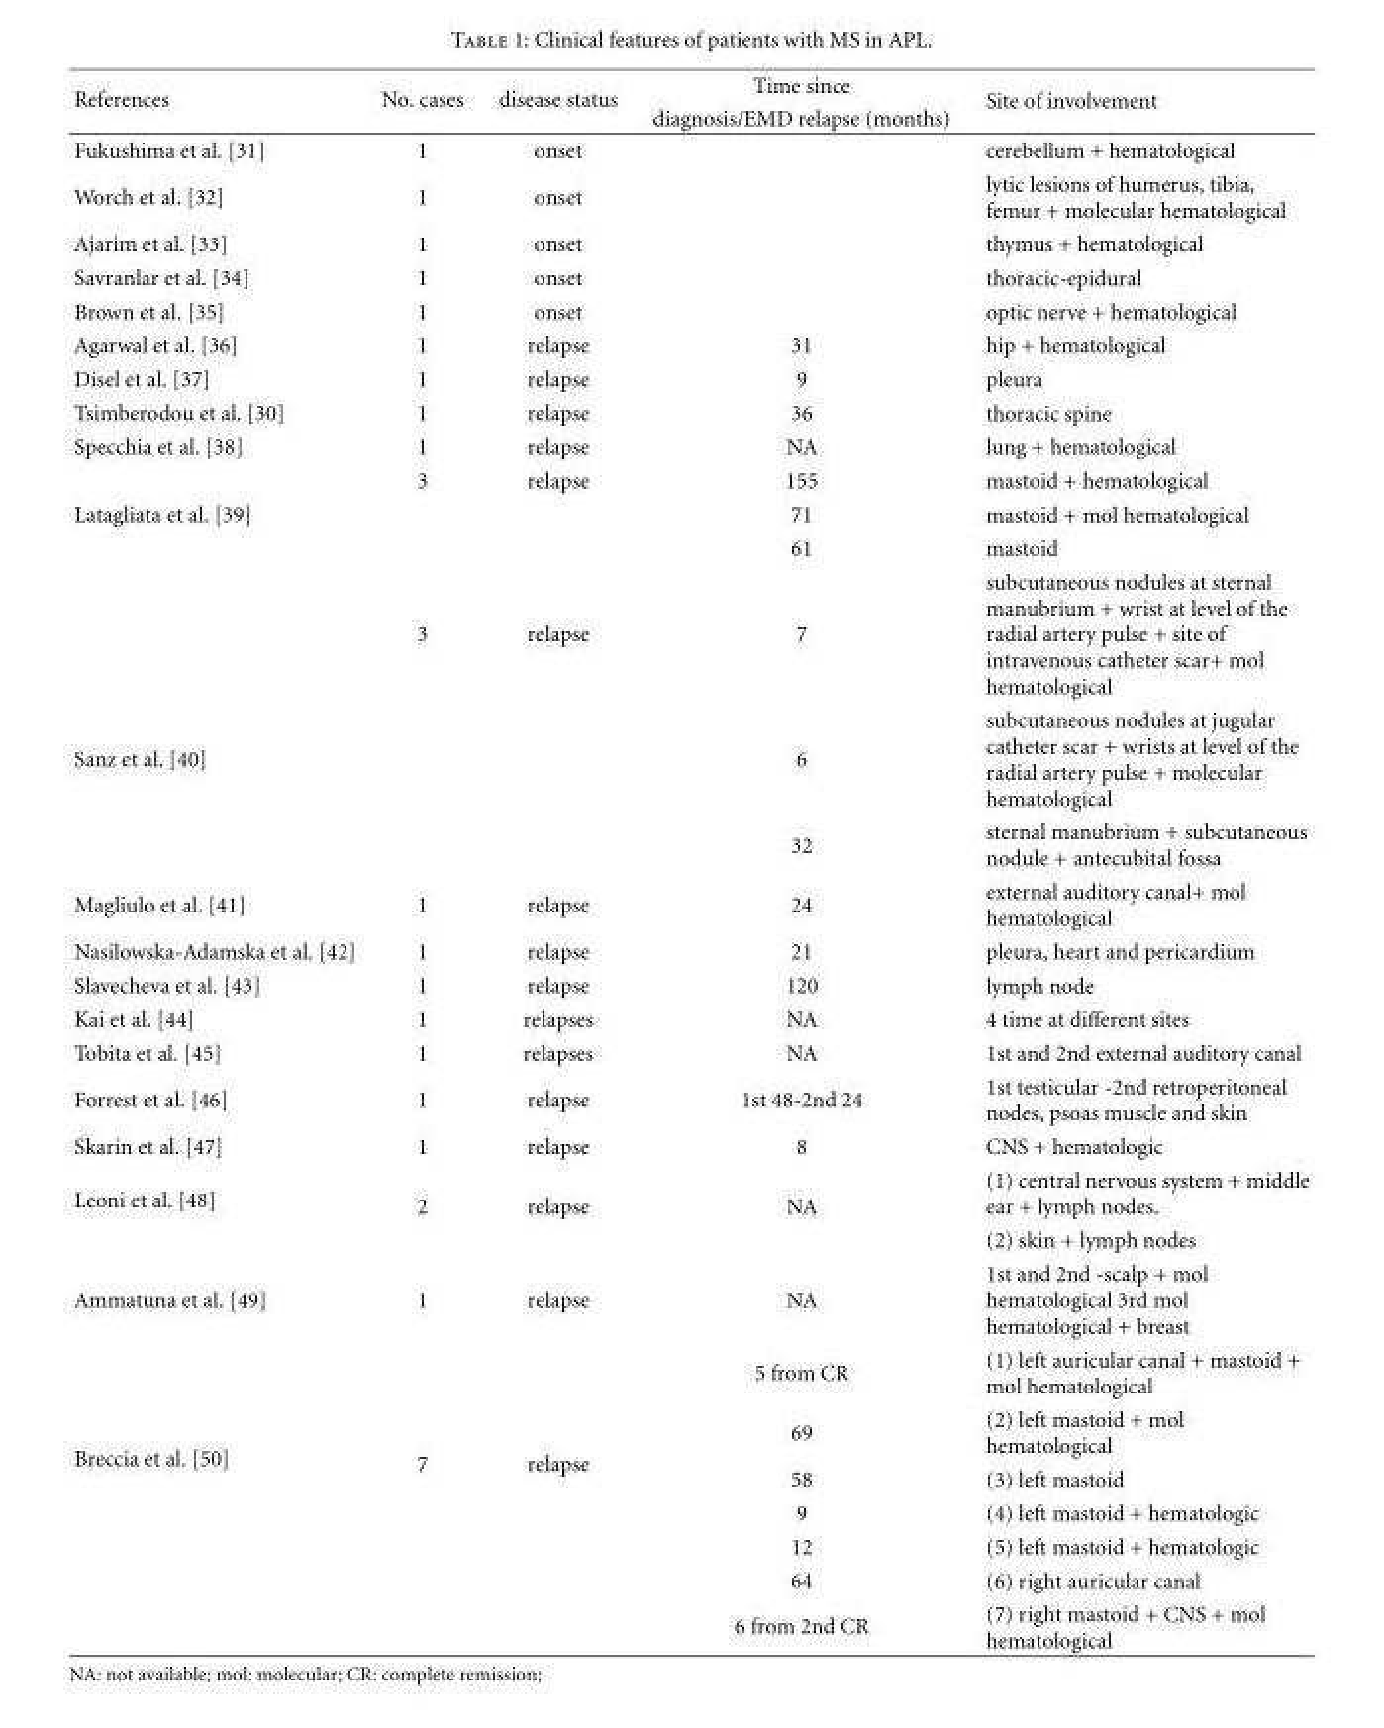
<table><thead><tr><td rowspan="2">References</td><td rowspan="2">No. cases</td><td rowspan="2">disease status</td><td rowspan="2">Time since diagnosis/EMD relapse (months)</td><td rowspan="2">Site of involvement</td></tr><tr></tr></thead><tbody><tr><td>Fukushima et al. [31]</td><td>1</td><td>onset</td><td></td><td>cerebellum + hematological</td></tr><tr><td>Worch et al. [32]</td><td>1</td><td>onset</td><td></td><td>lytic lesions of humerus, tibia, femur + molecular hematological</td></tr><tr><td>Ajarim et al. [33]</td><td>1</td><td>onset</td><td></td><td>thymus + hematological</td></tr><tr><td>Savranlar et al. [34]</td><td>1</td><td>onset</td><td></td><td>thoracic-epidural</td></tr><tr><td>Brown et al. [35]</td><td>1</td><td>onset</td><td></td><td>optic nerve + hematological</td></tr><tr><td>Agarwal et al. [36]</td><td>1</td><td>relapse</td><td>31</td><td>hip + hematological</td></tr><tr><td>Disel et al. [37]</td><td>1</td><td>relapse</td><td>9</td><td>pleura</td></tr><tr><td>Tsimberodou et al. [30]</td><td>1</td><td>relapse</td><td>36</td><td>thoracic spine</td></tr><tr><td rowspan="2">Specchia et al. [38]</td><td>1</td><td>relapse</td><td>NA</td><td>lung + hematological</td></tr><tr><td>3</td><td>relapse</td><td>155</td><td>mastoid + hematological</td></tr><tr><td rowspan="3">Latagliata et al. [39]</td><td></td><td></td><td>71</td><td>mastoid + mol hematological</td></tr><tr><td></td><td></td><td>61</td><td>mastoid</td></tr><tr><td>3</td><td>relapse</td><td>7</td><td>subcutaneous nodules at sternal manubrium + wrist at level of the radial artery pulse + site of intravenous catheter scar+ mol hematological</td></tr><tr><td rowspan="2">Sanz et al. [40]</td><td></td><td></td><td>6</td><td>subcutaneous nodules at jugular catheter scar + wrists at level of the radial artery pulse + molecular hematological</td></tr><tr><td></td><td></td><td>32</td><td>sternal manubrium + subcutaneous nodule + antecubital fossa</td></tr><tr><td>Magliulo et al. [41]</td><td>1</td><td>relapse</td><td>24</td><td>external auditory canal+ mol hematological</td></tr><tr><td>Nasilowska-Adamska et al. [42]</td><td>1</td><td>relapse</td><td>21</td><td>pleura, heart and pericardium</td></tr><tr><td>Slavecheva et al. [43]</td><td>1</td><td>relapse</td><td>120</td><td>lymph node</td></tr><tr><td>Kai et al. [44]</td><td>1</td><td>relapses</td><td>NA</td><td>4 time at different sites</td></tr><tr><td>Tobita et al. [45]</td><td>1</td><td>relapses</td><td>NA</td><td>1st and 2nd external auditory canal</td></tr><tr><td>Forrest et al. [46]</td><td>1</td><td>relapse</td><td>1st 48-2nd 24</td><td>1st testicular -2nd retroperitoneal nodes, psoas muscle and skin</td></tr><tr><td>Skarin et al. [47]</td><td>1</td><td>relapse</td><td>8</td><td>CNS + hematologic</td></tr><tr><td rowspan="2">Leoni et al. [48]</td><td rowspan="2">2</td><td rowspan="2">relapse</td><td rowspan="2">NA</td><td>(1) central nervous system + middle ear + lymph nodes.</td></tr><tr><td>(2) skin + lymph nodes</td></tr><tr><td>Ammatuna et al. [49]</td><td>1</td><td>relapse</td><td>NA</td><td>1st and 2nd -scalp + mol hematological 3rd mol hematological + breast</td></tr><tr><td rowspan="7">Breccia et al. [50]</td><td rowspan="7">7</td><td rowspan="7">relapse</td><td>5 from CR</td><td>(1) left auricular canal + mastoid + mol hematological</td></tr><tr><td>69</td><td>(2) left mastoid + mol hematological</td></tr><tr><td>58</td><td>(3) left mastoid</td></tr><tr><td>9</td><td>(4) left mastoid + hematologic</td></tr><tr><td>12</td><td>(5) left mastoid + hematologic</td></tr><tr><td>64</td><td>(6) right auricular canal</td></tr><tr><td>6 from 2nd CR</td><td>(7) right mastoid + CNS + mol hematological</td></tr></tbody></table>